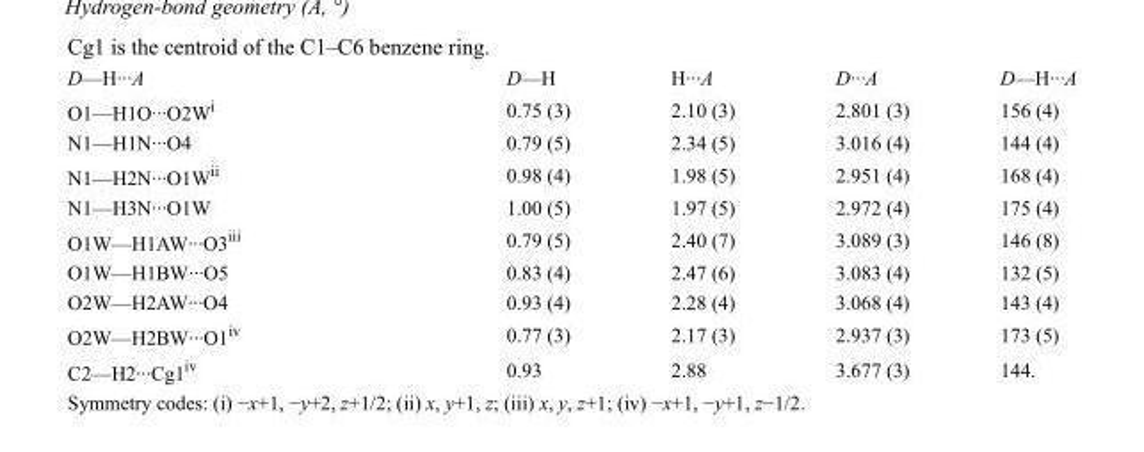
<table><tbody><tr><td>D—H···A</td><td>D—H</td><td>H···A</td><td>D···A</td><td>D—H···A</td></tr><tr><td>O1—H1O···O2W<sup>i</sup></td><td>0.75 (3)</td><td>2.10 (3)</td><td>2.801 (3)</td><td>156 (4)</td></tr><tr><td>N1—H1N···O4</td><td>0.79 (5)</td><td>2.34 (5)</td><td>3.016 (4)</td><td>144 (4)</td></tr><tr><td>N1—H2N···O1W<sup>ii</sup></td><td>0.98 (4)</td><td>1.98 (5)</td><td>2.951 (4)</td><td>168 (4)</td></tr><tr><td>N1—H3N···O1W</td><td>1.00 (5)</td><td>1.97 (5)</td><td>2.972 (4)</td><td>175 (4)</td></tr><tr><td>O1W—H1AW···O3<sup>iii</sup></td><td>0.79 (5)</td><td>2.40 (7)</td><td>3.089 (3)</td><td>146 (8)</td></tr><tr><td>O1W—H1BW···O5</td><td>0.83 (4)</td><td>2.47 (6)</td><td>3.083 (4)</td><td>132 (5)</td></tr><tr><td>O2W—H2AW···O4</td><td>0.93 (4)</td><td>2.28 (4)</td><td>3.068 (4)</td><td>143 (4)</td></tr><tr><td>O2W—H2BW···O1<sup>iv</sup></td><td>0.77 (3)</td><td>2.17 (3)</td><td>2.937 (3)</td><td>173 (5)</td></tr><tr><td>C2—H2···Cg1<sup>iv</sup></td><td>0.93</td><td>2.88</td><td>3.677 (3)</td><td>144.</td></tr></tbody></table>